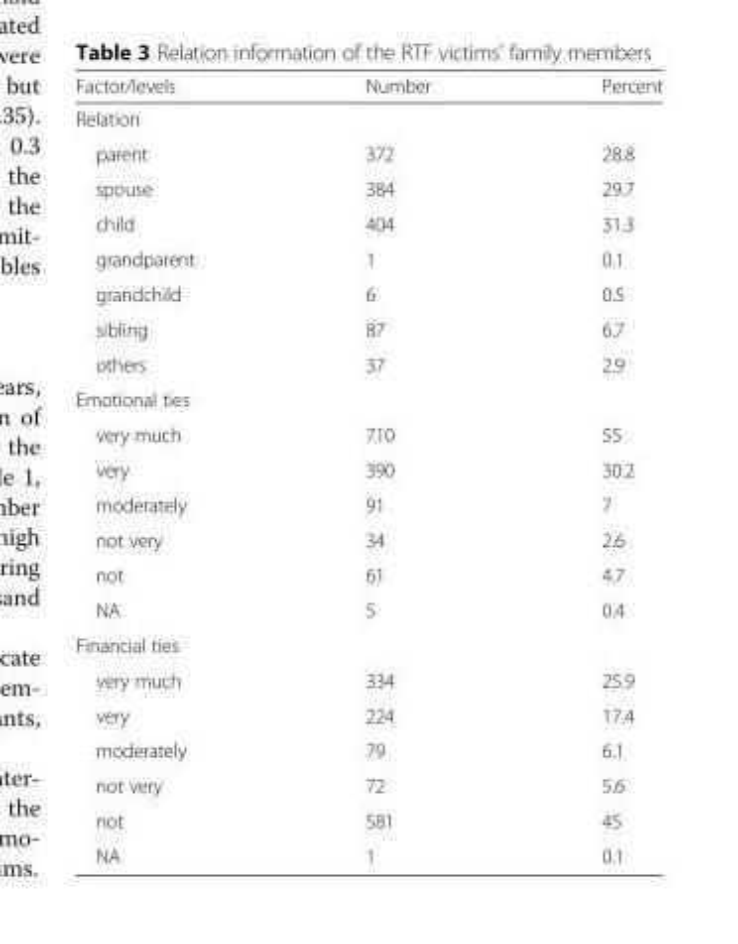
<table><thead><tr><td>Factor/levels</td><td>Number</td><td>Percent</td></tr></thead><tbody><tr><td colspan="3">Relation</td></tr><tr><td>parent</td><td>372</td><td>28.8</td></tr><tr><td>spouse</td><td>384</td><td>29.7</td></tr><tr><td>child</td><td>404</td><td>31.3</td></tr><tr><td>grandparent</td><td>1</td><td>0.1</td></tr><tr><td>grandchild</td><td>6</td><td>0.5</td></tr><tr><td>sibling</td><td>87</td><td>6.7</td></tr><tr><td>others</td><td>37</td><td>2.9</td></tr><tr><td colspan="3">Emotional ties</td></tr><tr><td>very much</td><td>710</td><td>55</td></tr><tr><td>very</td><td>390</td><td>30.2</td></tr><tr><td>moderately</td><td>91</td><td>7</td></tr><tr><td>not very</td><td>34</td><td>2.6</td></tr><tr><td>not</td><td>61</td><td>4.7</td></tr><tr><td>NA</td><td>5</td><td>0.4</td></tr><tr><td colspan="3">Financial ties</td></tr><tr><td>very much</td><td>334</td><td>25.9</td></tr><tr><td>very</td><td>224</td><td>17.4</td></tr><tr><td>moderately</td><td>79</td><td>6.1</td></tr><tr><td>not very</td><td>72</td><td>5.6</td></tr><tr><td>not</td><td>581</td><td>45</td></tr><tr><td>NA</td><td>1</td><td>0.1</td></tr></tbody></table>